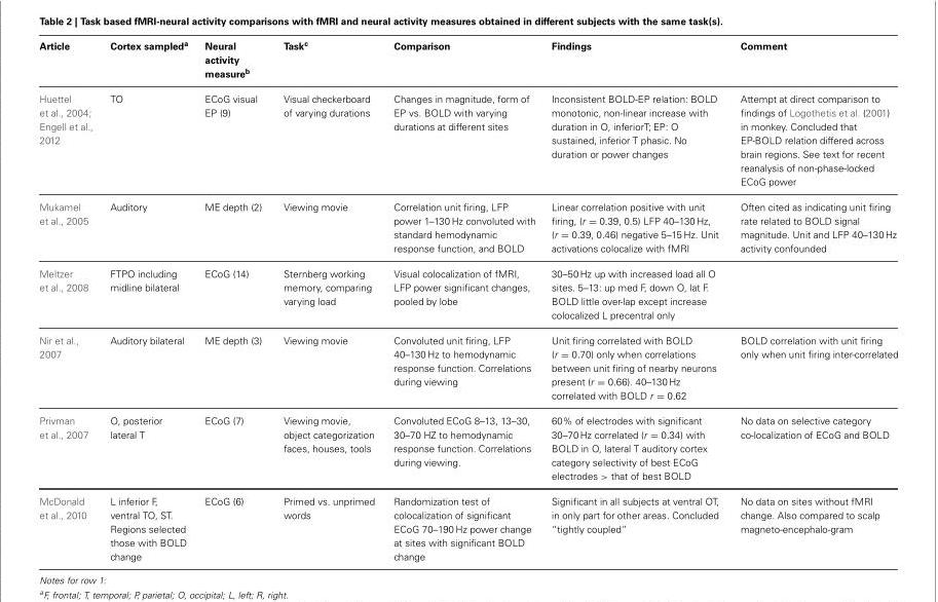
<table><thead><tr><td>Article</td><td>Cortex sampled<sup>a</sup></td><td>Neural activity measure<sup>b</sup></td><td>Task<sup>c</sup></td><td>Comparison</td><td>Findings</td><td>Comment</td></tr></thead><tbody><tr><td>Huettel et al., 2004; Engell et al., 2012</td><td>TO</td><td>ECoG visual EP (9)</td><td>Visual checkerboard of varying durations</td><td>Changes in magnitude, form of EP vs. BOLD with varying durations at different sites</td><td>Inconsistent BOLD-EP relation: BOLD monotonic, non-linear increase with duration in O, inferiorT; EP: O sustained, inferior T phasic. No duration or power changes</td><td>Attempt at direct comparison to findings of Logothetis et al. (2001) in monkey. Concluded that EP-BOLD relation differed across brain regions. See text for recent reanalysis of non-phase-locked ECoG power</td></tr><tr><td>Mukamel et al., 2005</td><td>Auditory</td><td>ME depth (2)</td><td>Viewing movie</td><td>Correlation unit firing, LFP power 1–130 Hz convoluted with standard hemodynamic response function, and BOLD</td><td>Linear correlation positive with unit firing, (r = 0.39, 0.5) LFP 40–130Hz, (r = 0.39, 0.46) negative 5–15 Hz. Unit activations colocalize with fMRI</td><td>Often cited as indicating unit firing rate related to BOLD signal magnitude. Unit and LFP 40–130Hz activity confounded</td></tr><tr><td>Meltzer et al., 2008</td><td>FTPO including midline bilateral</td><td>ECoG (14)</td><td>Sternberg working memory, comparing varying load</td><td>Visual colocalization of fMRI, LFP power significant changes, pooled by lobe</td><td>30–50Hz up with increased load all O sites. 5–13: up med F, down O, lat F. BOLD little over-lap except increase colocalized L precentral only</td><td></td></tr><tr><td>Nir et al., 2007</td><td>Auditory bilateral</td><td>ME depth (3)</td><td>Viewing movie</td><td>Convoluted unit firing, LFP 40–130 Hz to hemodynamic response function. Correlations during viewing</td><td>Unit firing correlated with BOLD (r = 0.70) only when correlations between unit firing of nearby neurons present (r = 0.66). 40–130Hz correlated with BOLD r = 0.62</td><td>BOLD correlation with unit firing only when unit firing inter-correlated</td></tr><tr><td>Privman et al., 2007</td><td>O, posterior lateral T</td><td>ECoG (7)</td><td>Viewing movie, object categorization faces, houses, tools</td><td>Convoluted ECoG 8–13, 13–30, 30–70 HZ to hemodynamic response function. Correlations during viewing.</td><td>60% of electrodes with significant 30–70Hz correlated (r = 0.34) with BOLD in O, lateral T auditory cortex category selectivity of best ECoG electrodes &gt; that of best BOLD</td><td>No data on selective category co-localization of ECoG and BOLD</td></tr><tr><td>McDonald et al., 2010</td><td>L inferior F, ventral TO, ST. Regions selected those with BOLD change</td><td>ECoG (6)</td><td>Primed vs. unprimed words</td><td>Randomization test of colocalization of significant ECoG 70–190 Hz power change at sites with significant BOLD change</td><td>Significant in all subjects at ventral OT, in only part for other areas. Concluded “tightly coupled”</td><td>No data on sites without fMRI change. Also compared to scalp magneto-encephalo-gram</td></tr></tbody></table>